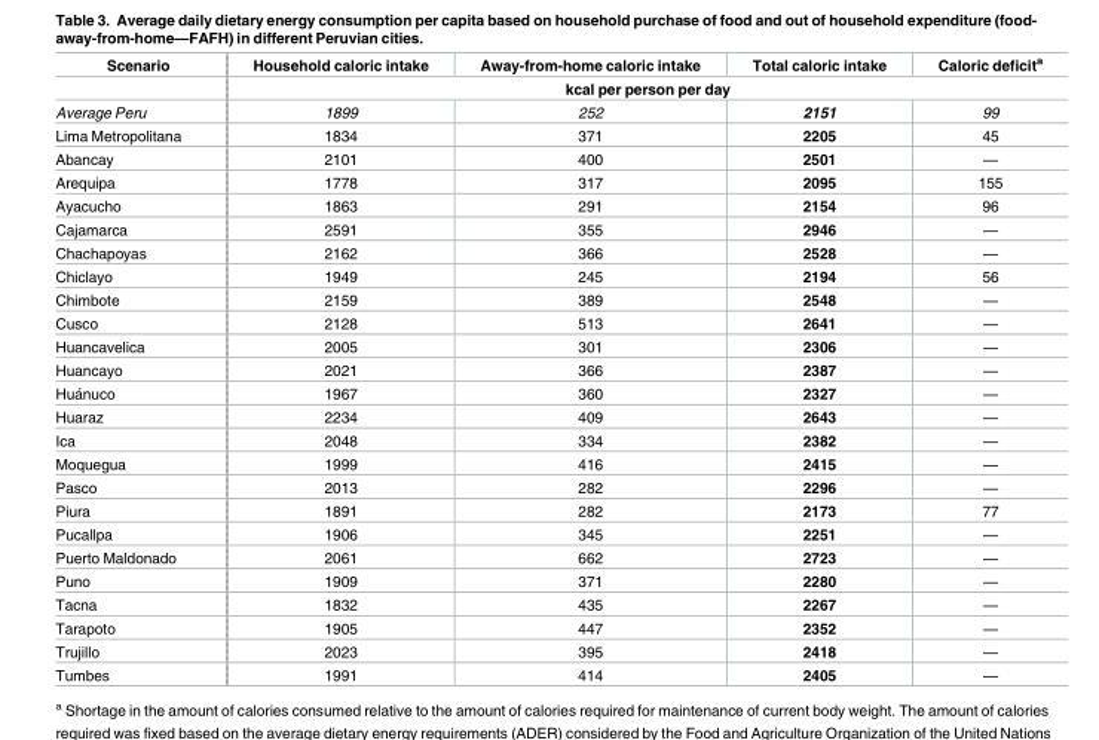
<table><thead><tr><td rowspan="2">Scenario</td><td>Household caloric intake</td><td>Away-from-home caloric intake</td><td>Total caloric intake</td><td>Caloric deficit<sup>a</sup></td></tr><tr><td colspan="4">kcal per person per day</td></tr></thead><tbody><tr><td>Average Peru</td><td>1899</td><td>252</td><td>2151</td><td>99</td></tr><tr><td>Lima Metropolitana</td><td>1834</td><td>371</td><td>2205</td><td>45</td></tr><tr><td>Abancay</td><td>2101</td><td>400</td><td>2501</td><td>—</td></tr><tr><td>Arequipa</td><td>1778</td><td>317</td><td>2095</td><td>155</td></tr><tr><td>Ayacucho</td><td>1863</td><td>291</td><td>2154</td><td>96</td></tr><tr><td>Cajamarca</td><td>2591</td><td>355</td><td>2946</td><td>—</td></tr><tr><td>Chachapoyas</td><td>2162</td><td>366</td><td>2528</td><td>—</td></tr><tr><td>Chiclayo</td><td>1949</td><td>245</td><td>2194</td><td>56</td></tr><tr><td>Chimbote</td><td>2159</td><td>389</td><td>2548</td><td>—</td></tr><tr><td>Cusco</td><td>2128</td><td>513</td><td>2641</td><td>—</td></tr><tr><td>Huancavelica</td><td>2005</td><td>301</td><td>2306</td><td>—</td></tr><tr><td>Huancayo</td><td>2021</td><td>366</td><td>2387</td><td>—</td></tr><tr><td>Hua´nuco</td><td>1967</td><td>360</td><td>2327</td><td>—</td></tr><tr><td>Huaraz</td><td>2234</td><td>409</td><td>2643</td><td>—</td></tr><tr><td>Ica</td><td>2048</td><td>334</td><td>2382</td><td>—</td></tr><tr><td>Moquegua</td><td>1999</td><td>416</td><td>2415</td><td>—</td></tr><tr><td>Pasco</td><td>2013</td><td>282</td><td>2296</td><td>—</td></tr><tr><td>Piura</td><td>1891</td><td>282</td><td>2173</td><td>77</td></tr><tr><td>Pucallpa</td><td>1906</td><td>345</td><td>2251</td><td>—</td></tr><tr><td>Puerto Maldonado</td><td>2061</td><td>662</td><td>2723</td><td>—</td></tr><tr><td>Puno</td><td>1909</td><td>371</td><td>2280</td><td>—</td></tr><tr><td>Tacna</td><td>1832</td><td>435</td><td>2267</td><td>—</td></tr><tr><td>Tarapoto</td><td>1905</td><td>447</td><td>2352</td><td>—</td></tr><tr><td>Trujillo</td><td>2023</td><td>395</td><td>2418</td><td>—</td></tr><tr><td>Tumbes</td><td>1991</td><td>414</td><td>2405</td><td>—</td></tr></tbody></table>